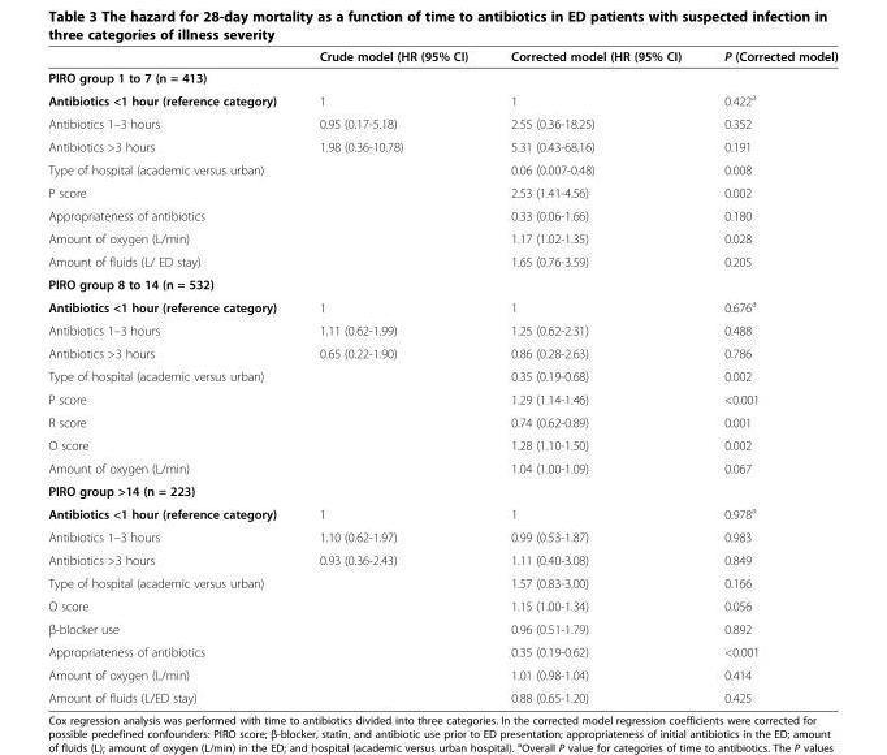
<table><thead><tr><td></td><td>Crude model (HR (95% CI)</td><td>Corrected model (HR (95% CI)</td><td>P (Corrected model)</td></tr></thead><tbody><tr><td colspan="4">PIRO group 1 to 7 (n = 413)</td></tr><tr><td>Antibiotics &lt;1 hour (reference category)</td><td>1</td><td>1</td><td>0.422<sup>a</sup></td></tr><tr><td>Antibiotics 1–3 hours</td><td>0.95 (0.17-5.18)</td><td>2.55 (0.36-18.25)</td><td>0.352</td></tr><tr><td>Antibiotics &gt;3 hours</td><td>1.98 (0.36-10.78)</td><td>5.31 (0.43-68.16)</td><td>0.191</td></tr><tr><td>Type of hospital (academic versus urban)</td><td></td><td>0.06 (0.007-0.48)</td><td>0.008</td></tr><tr><td>P score</td><td></td><td>2.53 (1.41-4.56)</td><td>0.002</td></tr><tr><td>Appropriateness of antibiotics</td><td></td><td>0.33 (0.06-1.66)</td><td>0.180</td></tr><tr><td>Amount of oxygen (L/min)</td><td></td><td>1.17 (1.02-1.35)</td><td>0.028</td></tr><tr><td>Amount of fluids (L/ ED stay)</td><td></td><td>1.65 (0.76-3.59)</td><td>0.205</td></tr><tr><td colspan="4">PIRO group 8 to 14 (n = 532)</td></tr><tr><td>Antibiotics &lt;1 hour (reference category)</td><td>1</td><td>1</td><td>0.676<sup>a</sup></td></tr><tr><td>Antibiotics 1–3 hours</td><td>1.11 (0.62-1.99)</td><td>1.25 (0.62-2.31)</td><td>0.488</td></tr><tr><td>Antibiotics &gt;3 hours</td><td>0.65 (0.22-1.90)</td><td>0.86 (0.28-2.63)</td><td>0.786</td></tr><tr><td>Type of hospital (academic versus urban)</td><td></td><td>0.35 (0.19-0.68)</td><td>0.002</td></tr><tr><td>P score</td><td></td><td>1.29 (1.14-1.46)</td><td>&lt;0.001</td></tr><tr><td>R score</td><td></td><td>0.74 (0.62-0.89)</td><td>0.001</td></tr><tr><td>O score</td><td></td><td>1.28 (1.10-1.50)</td><td>0.002</td></tr><tr><td>Amount of oxygen (L/min)</td><td></td><td>1.04 (1.00-1.09)</td><td>0.067</td></tr><tr><td colspan="4">PIRO group &gt;14 (n = 223)</td></tr><tr><td>Antibiotics &lt;1 hour (reference category)</td><td>1</td><td>1</td><td>0.978<sup>a</sup></td></tr><tr><td>Antibiotics 1–3 hours</td><td>1.10 (0.62-1.97)</td><td>0.99 (0.53-1.87)</td><td>0.983</td></tr><tr><td>Antibiotics &gt;3 hours</td><td>0.93 (0.36-2.43)</td><td>1.11 (0.40-3.08)</td><td>0.849</td></tr><tr><td>Type of hospital (academic versus urban)</td><td></td><td>1.57 (0.83-3.00)</td><td>0.166</td></tr><tr><td>O score</td><td></td><td>1.15 (1.00-1.34)</td><td>0.056</td></tr><tr><td>β-blocker use</td><td></td><td>0.96 (0.51-1.79)</td><td>0.892</td></tr><tr><td>Appropriateness of antibiotics</td><td></td><td>0.35 (0.19-0.62)</td><td>&lt;0.001</td></tr><tr><td>Amount of oxygen (L/min)</td><td></td><td>1.01 (0.98-1.04)</td><td>0.414</td></tr><tr><td>Amount of fluids (L/ED stay)</td><td></td><td>0.88 (0.65-1.20)</td><td>0.425</td></tr></tbody></table>